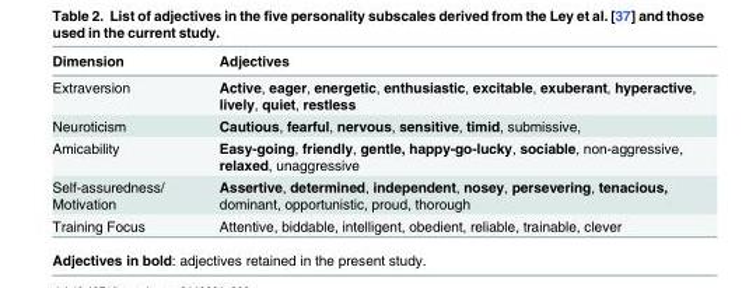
<table><thead><tr><td>Dimension</td><td>Adjectives</td></tr></thead><tbody><tr><td>Extraversion</td><td>Active, eager, energetic, enthusiastic, excitable, exuberant, hyperactive, lively, quiet, restless</td></tr><tr><td>Neuroticism</td><td>Cautious, fearful, nervous, sensitive, timid, submissive,</td></tr><tr><td>Amicability</td><td>Easy-going, friendly, gentle, happy-go-lucky, sociable, non-aggressive, relaxed, unaggressive</td></tr><tr><td>Self-assuredness/ Motivation</td><td>Assertive, determined, independent, nosey, persevering, tenacious, dominant, opportunistic, proud, thorough</td></tr><tr><td>Training Focus</td><td>Attentive, biddable, intelligent, obedient, reliable, trainable, clever</td></tr></tbody></table>